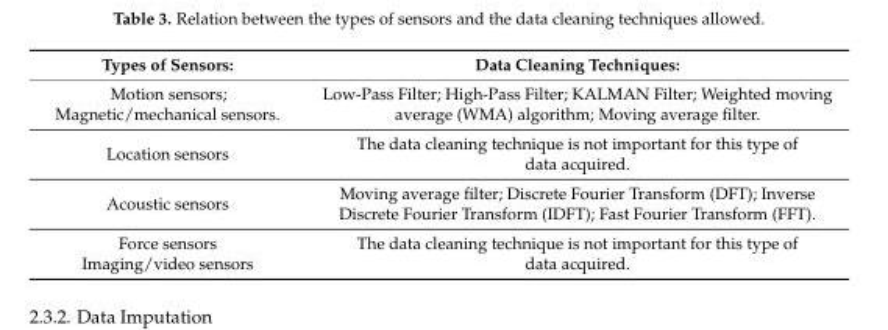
<table><thead><tr><td>Types of Sensors:</td><td>Data Cleaning Techniques:</td></tr></thead><tbody><tr><td>Motion sensors; Magnetic/mechanical sensors.</td><td>Low-Pass Filter; High-Pass Filter; KALMAN Filter; Weighted moving average (WMA) algorithm; Moving average filter.</td></tr><tr><td>Location sensors</td><td>The data cleaning technique is not important for this type of data acquired.</td></tr><tr><td>Acoustic sensors</td><td>Moving average filter; Discrete Fourier Transform (DFT); Inverse Discrete Fourier Transform (IDFT); Fast Fourier Transform (FFT).</td></tr><tr><td>Force sensors Imaging/video sensors</td><td>The data cleaning technique is not important for this type of data acquired.</td></tr></tbody></table>